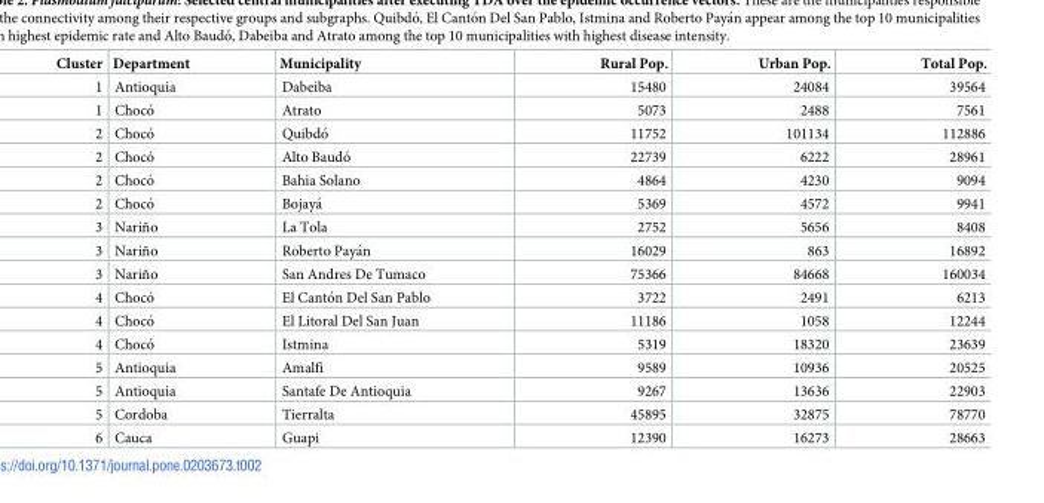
<table><thead><tr><td>Cluster</td><td>Department</td><td>Municipality</td><td>Rural Pop.</td><td>Urban Pop.</td><td>Total Pop.</td></tr></thead><tbody><tr><td>1</td><td>Antioquia</td><td>Dabeiba</td><td>15480</td><td>24084</td><td>39564</td></tr><tr><td>1</td><td>Choco´</td><td>Atrato</td><td>5073</td><td>2488</td><td>7561</td></tr><tr><td>2</td><td>Choco´</td><td>Quibdo´</td><td>11752</td><td>101134</td><td>112886</td></tr><tr><td>2</td><td>Choco´</td><td>Alto Baudo´</td><td>22739</td><td>6222</td><td>28961</td></tr><tr><td>2</td><td>Choco´</td><td>Bahia Solano</td><td>4864</td><td>4230</td><td>9094</td></tr><tr><td>2</td><td>Choco´</td><td>Bojaya´</td><td>5369</td><td>4572</td><td>9941</td></tr><tr><td>3</td><td>Nariño</td><td>La Tola</td><td>2752</td><td>5656</td><td>8408</td></tr><tr><td>3</td><td>Nariño</td><td>Roberto Paya´n</td><td>16029</td><td>863</td><td>16892</td></tr><tr><td>3</td><td>Nariño</td><td>San Andres De Tumaco</td><td>75366</td><td>84668</td><td>160034</td></tr><tr><td>4</td><td>Choco´</td><td>El Canto´n Del San Pablo</td><td>3722</td><td>2491</td><td>6213</td></tr><tr><td>4</td><td>Choco´</td><td>El Litoral Del San Juan</td><td>11186</td><td>1058</td><td>12244</td></tr><tr><td>4</td><td>Choco´</td><td>Istmina</td><td>5319</td><td>18320</td><td>23639</td></tr><tr><td>5</td><td>Antioquia</td><td>Amalfi</td><td>9589</td><td>10936</td><td>20525</td></tr><tr><td>5</td><td>Antioquia</td><td>Santafe De Antioquia</td><td>9267</td><td>13636</td><td>22903</td></tr><tr><td>5</td><td>Cordoba</td><td>Tierralta</td><td>45895</td><td>32875</td><td>78770</td></tr><tr><td>6</td><td>Cauca</td><td>Guapi</td><td>12390</td><td>16273</td><td>28663</td></tr></tbody></table>